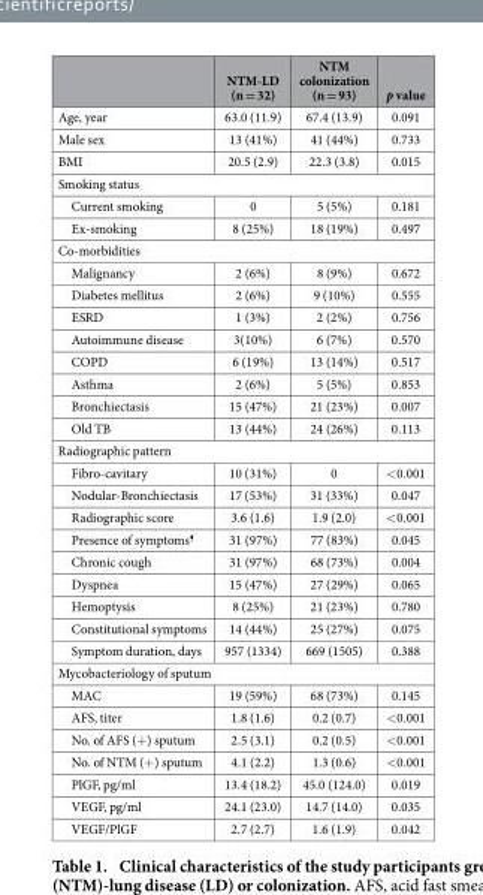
<table><thead><tr><td></td><td>NTM-LD (n = 32)</td><td>NTM colonization (n = 93)</td><td>p value</td></tr></thead><tbody><tr><td>Age, year</td><td>63.0 (11.9)</td><td>67.4 (13.9)</td><td>0.091</td></tr><tr><td>Male sex</td><td>13 (41%)</td><td>41 (44%)</td><td>0.733</td></tr><tr><td>BMI</td><td>20.5 (2.9)</td><td>22.3 (3.8)</td><td>0.015</td></tr><tr><td colspan="4">Smoking status</td></tr><tr><td>Current smoking</td><td>0</td><td>5 (5%)</td><td>0.181</td></tr><tr><td>Ex-smoking</td><td>8 (25%)</td><td>18 (19%)</td><td>0.497</td></tr><tr><td colspan="4">Co-morbidities</td></tr><tr><td>Malignancy</td><td>2 (6%)</td><td>8 (9%)</td><td>0.672</td></tr><tr><td>Diabetes mellitus</td><td>2 (6%)</td><td>9 (10%)</td><td>0.555</td></tr><tr><td>ESRD</td><td>1 (3%)</td><td>2 (2%)</td><td>0.756</td></tr><tr><td>Autoimmune disease</td><td>3(10%)</td><td>6 (7%)</td><td>0.570</td></tr><tr><td>COPD</td><td>6 (19%)</td><td>13 (14%)</td><td>0.517</td></tr><tr><td>Asthma</td><td>2 (6%)</td><td>5 (5%)</td><td>0.853</td></tr><tr><td>Bronchiectasis</td><td>15 (47%)</td><td>21 (23%)</td><td>0.007</td></tr><tr><td>Old TB</td><td>13 (44%)</td><td>24 (26%)</td><td>0.113</td></tr><tr><td colspan="4">Radiographic pattern</td></tr><tr><td>Fibro-cavitary</td><td>10 (31%)</td><td>0</td><td>&lt; 0.001</td></tr><tr><td>Nodular-Bronchiectasis</td><td>17 (53%)</td><td>31 (33%)</td><td>0.047</td></tr><tr><td>Radiographic score</td><td>3.6 (1.6)</td><td>1.9 (2.0)</td><td>&lt; 0.001</td></tr><tr><td>Presence of symptoms¶</td><td>31 (97%)</td><td>77 (83%)</td><td>0.045</td></tr><tr><td>Chronic cough</td><td>31 (97%)</td><td>68 (73%)</td><td>0.004</td></tr><tr><td>Dyspnea</td><td>15 (47%)</td><td>27 (29%)</td><td>0.065</td></tr><tr><td>Hemoptysis</td><td>8 (25%)</td><td>21 (23%)</td><td>0.780</td></tr><tr><td>Constitutional symptoms</td><td>14 (44%)</td><td>25 (27%)</td><td>0.075</td></tr><tr><td>Symptom duration, days</td><td>957 (1334)</td><td>669 (1505)</td><td>0.388</td></tr><tr><td colspan="4">Mycobacteriology of sputum</td></tr><tr><td>MAC</td><td>19 (59%)</td><td>68 (73%)</td><td>0.145</td></tr><tr><td>AFS, titer</td><td>1.8 (1.6)</td><td>0.2 (0.7)</td><td>&lt; 0.001</td></tr><tr><td>No. of AFS (+ ) sputum</td><td>2.5 (3.1)</td><td>0.2 (0.5)</td><td>&lt; 0.001</td></tr><tr><td>No. of NTM (+ ) sputum</td><td>4.1 (2.2)</td><td>1.3 (0.6)</td><td>&lt; 0.001</td></tr><tr><td>PlGF, pg/ml</td><td>13.4 (18.2)</td><td>45.0 (124.0)</td><td>0.019</td></tr><tr><td>VEGF, pg/ml</td><td>24.1 (23.0)</td><td>14.7 (14.0)</td><td>0.035</td></tr><tr><td>VEGF/PlGF</td><td>2.7 (2.7)</td><td>1.6 (1.9)</td><td>0.042</td></tr></tbody></table>